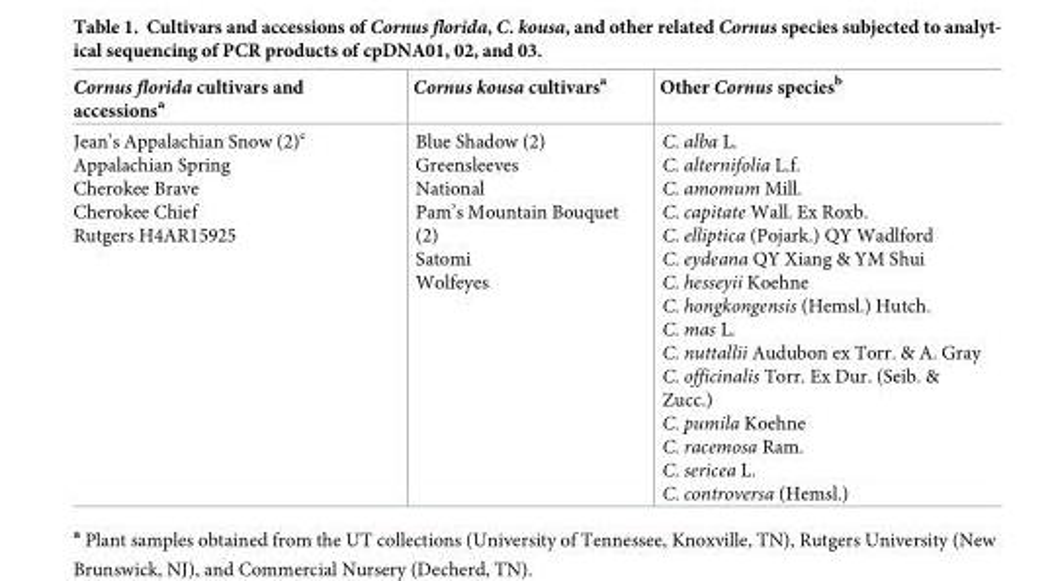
<table><thead><tr><td>Cornus florida cultivars and accessions<sup>a</sup></td><td>Cornus kousa cultivars<sup>a</sup></td><td>Other Cornus species<sup>b</sup></td></tr></thead><tbody><tr><td>Jean’s Appalachian Snow (2)<sup>c</sup> Appalachian Spring Cherokee Brave Cherokee Chief Rutgers H4AR15925</td><td>Blue Shadow (2) Greensleeves National Pam’s Mountain Bouquet (2) Satomi Wolfeyes</td><td>C. alba L. C. alternifolia L.f. C. amomum Mill. C. capitate Wall. Ex Roxb. C. elliptica (Pojark.) QY Wadlford C. eydeana QY Xiang &amp; YM Shui C. hesseyii Koehne C. hongkongensis (Hemsl.) Hutch. C. mas L. C. nuttallii Audubon ex Torr. &amp; A. Gray C. officinalis Torr. Ex Dur. (Seib. &amp; Zucc.) C. pumila Koehne C. racemosa Ram. C. sericea L. C. controversa (Hemsl.)</td></tr></tbody></table>